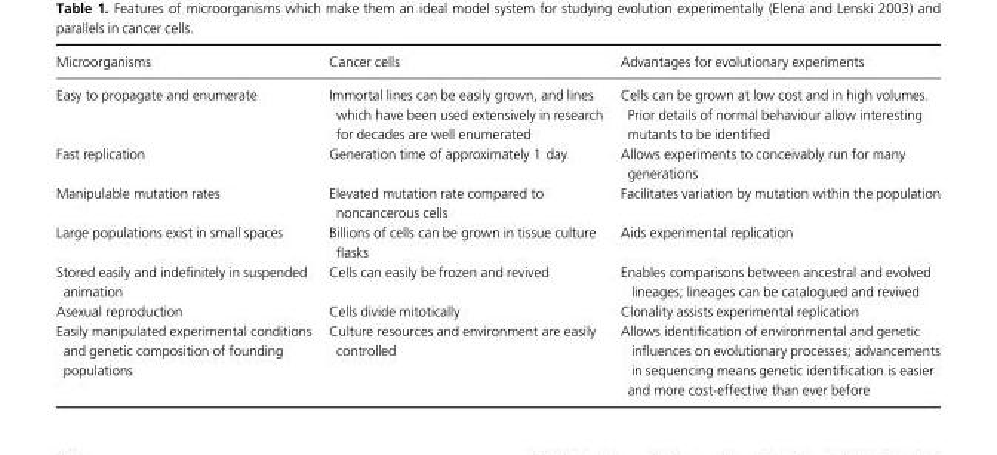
<table><thead><tr><td>Microorganisms</td><td>Cancer cells</td><td>Advantages for evolutionary experiments</td></tr></thead><tbody><tr><td>Easy to propagate and enumerate</td><td>Immortal lines can be easily grown, and lines which have been used extensively in research for decades are well enumerated</td><td>Cells can be grown at low cost and in high volumes. Prior details of normal behaviour allow interesting mutants to be identified</td></tr><tr><td>Fast replication</td><td>Generation time of approximately 1 day</td><td>Allows experiments to conceivably run for many generations</td></tr><tr><td>Manipulable mutation rates</td><td>Elevated mutation rate compared to noncancerous cells</td><td>Facilitates variation by mutation within the population</td></tr><tr><td>Large populations exist in small spaces</td><td>Billions of cells can be grown in tissue culture flasks</td><td>Aids experimental replication</td></tr><tr><td>Stored easily and indefinitely in suspended animation</td><td>Cells can easily be frozen and revived</td><td>Enables comparisons between ancestral and evolved lineages; lineages can be catalogued and revived</td></tr><tr><td>Asexual reproduction</td><td>Cells divide mitotically</td><td>Clonality assists experimental replication</td></tr><tr><td>Easily manipulated experimental conditions and genetic composition of founding populations</td><td>Culture resources and environment are easily controlled</td><td>Allows identification of environmental and genetic influences on evolutionary processes; advancements in sequencing means genetic identification is easier and more cost-effective than ever before</td></tr></tbody></table>